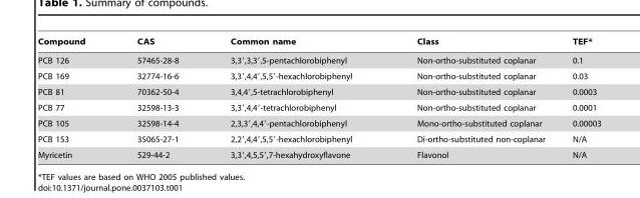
<table><thead><tr><td>Compound</td><td>CAS</td><td>Common name</td><td>Class</td><td>TEF*</td></tr></thead><tbody><tr><td>PCB 126</td><td>57465-28-8</td><td>3,3′,3,3′,5-pentachlorobiphenyl</td><td>Non-ortho-substituted coplanar</td><td>0.1</td></tr><tr><td>PCB 169</td><td>32774-16-6</td><td>3,3′,4,4′,5,5′-hexachlorobiphenyl</td><td>Non-ortho-substituted coplanar</td><td>0.03</td></tr><tr><td>PCB 81</td><td>70362-50-4</td><td>3,4,4′,5-tetrachlorobiphenyl</td><td>Non-ortho-substituted coplanar</td><td>0.0003</td></tr><tr><td>PCB 77</td><td>32598-13-3</td><td>3,3′,4,4′-tetrachlorobiphenyl</td><td>Non-ortho-substituted coplanar</td><td>0.0001</td></tr><tr><td>PCB 105</td><td>32598-14-4</td><td>2,3,3′,4,4′-pentachlorobiphenyl</td><td>Mono-ortho-substituted coplanar</td><td>0.00003</td></tr><tr><td>PCB 153</td><td>35065-27-1</td><td>2,2′,4,4′,5,5′-hexachlorobiphenyl</td><td>Di-ortho-substituted non-coplanar</td><td>N/A</td></tr><tr><td>Myricetin</td><td>529-44-2</td><td>3,3′,4,5,5′,7-hexahydroxyflavone</td><td>Flavonol</td><td>N/A</td></tr></tbody></table>